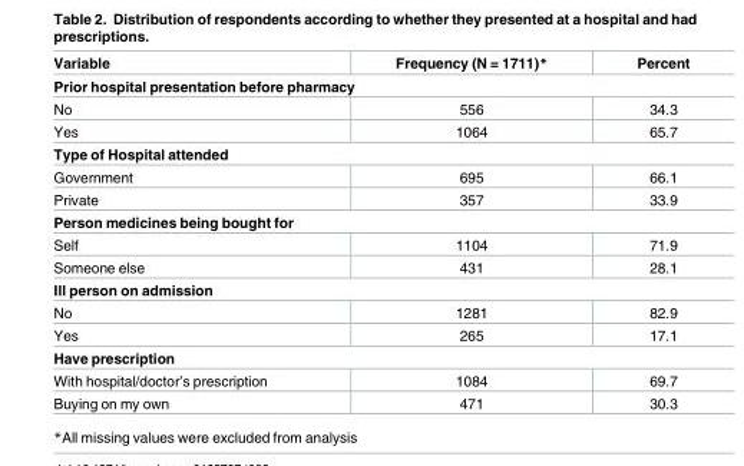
<table><thead><tr><td>Variable</td><td>Frequency (N = 1711)*</td><td>Percent</td></tr></thead><tbody><tr><td colspan="3">Prior hospital presentation before pharmacy</td></tr><tr><td>No</td><td>556</td><td>34.3</td></tr><tr><td>Yes</td><td>1064</td><td>65.7</td></tr><tr><td colspan="3">Type of Hospital attended</td></tr><tr><td>Government</td><td>695</td><td>66.1</td></tr><tr><td>Private</td><td>357</td><td>33.9</td></tr><tr><td colspan="3">Person medicines being bought for</td></tr><tr><td>Self</td><td>1104</td><td>71.9</td></tr><tr><td>Someone else</td><td>431</td><td>28.1</td></tr><tr><td colspan="3">Ill person on admission</td></tr><tr><td>No</td><td>1281</td><td>82.9</td></tr><tr><td>Yes</td><td>265</td><td>17.1</td></tr><tr><td colspan="3">Have prescription</td></tr><tr><td>With hospital/doctor’s prescription</td><td>1084</td><td>69.7</td></tr><tr><td>Buying on my own</td><td>471</td><td>30.3</td></tr></tbody></table>